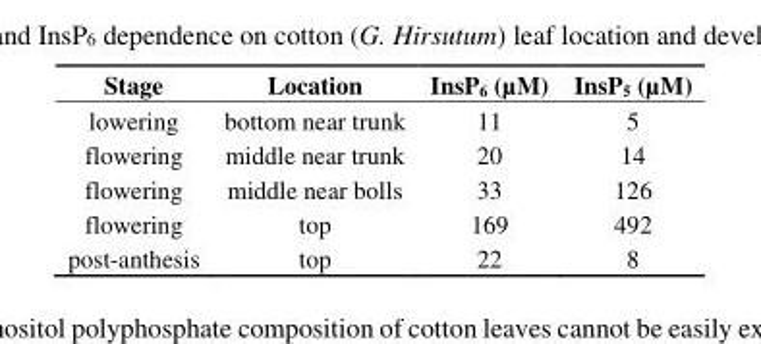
<table><thead><tr><td>Stage</td><td>Location</td><td>InsP<sub>6</sub> (µM)</td><td>InsP<sub>5</sub> (µM)</td></tr></thead><tbody><tr><td>lowering</td><td>bottom near trunk</td><td>11</td><td>5</td></tr><tr><td>flowering</td><td>middle near trunk</td><td>20</td><td>14</td></tr><tr><td>flowering</td><td>middle near bolls</td><td>33</td><td>126</td></tr><tr><td>flowering</td><td>top</td><td>169</td><td>492</td></tr><tr><td>post-anthesis</td><td>top</td><td>22</td><td>8</td></tr></tbody></table>